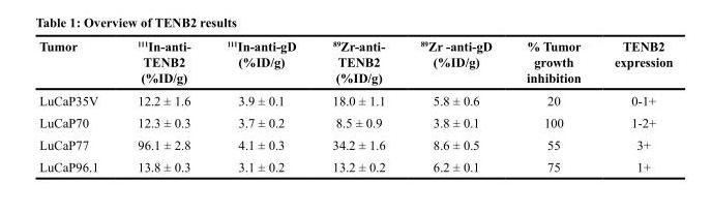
<table><thead><tr><td>Tumor</td><td><sup>111</sup>In-anti- TENB2 (%ID/g)</td><td><sup>111</sup>In-anti-gD (%ID/g)</td><td><sup>89</sup>Zr-anti- TENB2 (%ID/g)</td><td><sup>89</sup>Zr -anti-gD (%ID/g)</td><td>% Tumor growth inhibition</td><td>TENB2 expression</td></tr></thead><tbody><tr><td>LuCaP35V</td><td>12.2 ± 1.6</td><td>3.9 ± 0.1</td><td>18.0 ± 1.1</td><td>5.8 ± 0.6</td><td>20</td><td>0-1+</td></tr><tr><td>LuCaP70</td><td>12.3 ± 0.3</td><td>3.7 ± 0.2</td><td>8.5 ± 0.9</td><td>3.8 ± 0.1</td><td>100</td><td>1-2+</td></tr><tr><td>LuCaP77</td><td>96.1 ± 2.8</td><td>4.1 ± 0.3</td><td>34.2 ± 1.6</td><td>8.6 ± 0.5</td><td>55</td><td>3+</td></tr><tr><td>LuCaP96.1</td><td>13.8 ± 0.3</td><td>3.1 ± 0.2</td><td>13.2 ± 0.2</td><td>6.2 ± 0.1</td><td>75</td><td>1+</td></tr></tbody></table>